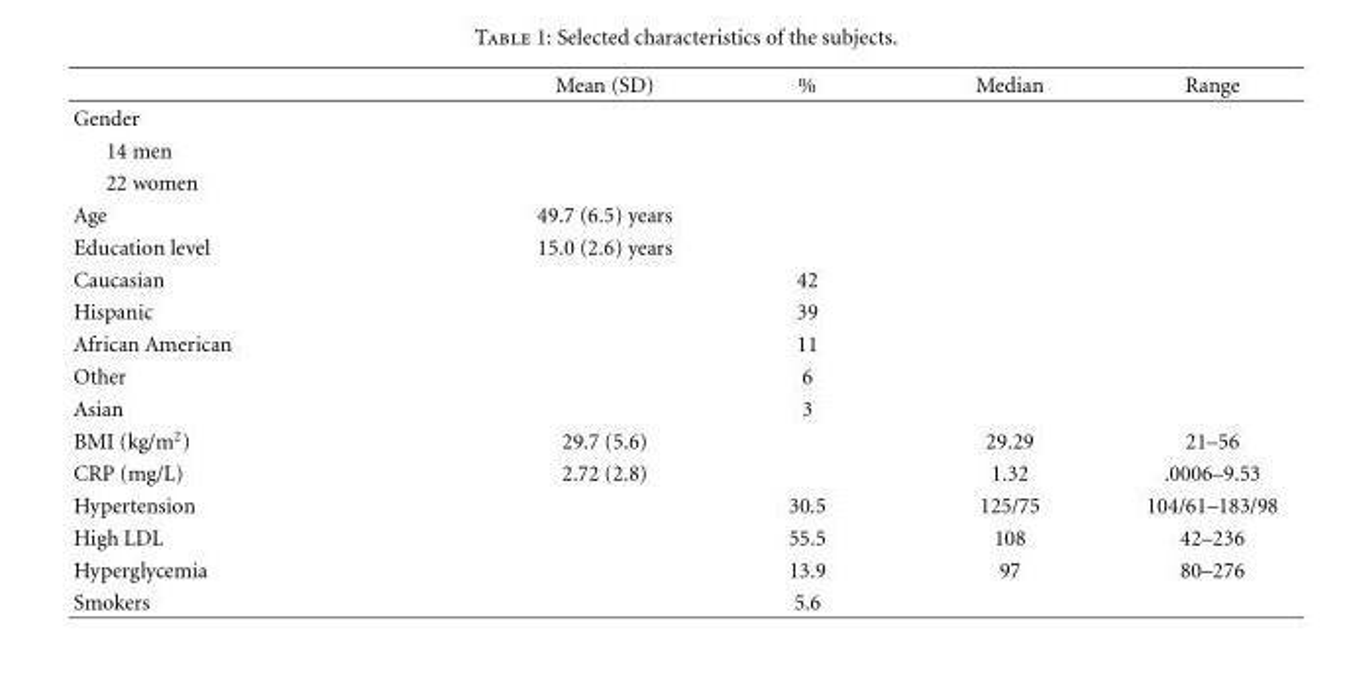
<table><thead><tr><td></td><td>Mean (SD)</td><td>%</td><td>Median</td><td>Range</td></tr></thead><tbody><tr><td colspan="5">Gender</td></tr><tr><td colspan="5">14 men</td></tr><tr><td colspan="5">22 women</td></tr><tr><td>Age</td><td>49.7 (6.5) years</td><td></td><td></td><td></td></tr><tr><td>Education level</td><td>15.0 (2.6) years</td><td></td><td></td><td></td></tr><tr><td>Caucasian</td><td></td><td>42</td><td></td><td></td></tr><tr><td>Hispanic</td><td></td><td>39</td><td></td><td></td></tr><tr><td>African American</td><td></td><td>11</td><td></td><td></td></tr><tr><td>Other</td><td></td><td>6</td><td></td><td></td></tr><tr><td>Asian</td><td></td><td>3</td><td></td><td></td></tr><tr><td>BMI (kg/m<sup>2</sup>)</td><td>29.7 (5.6)</td><td></td><td>29.29</td><td>21–56</td></tr><tr><td>CRP (mg/L)</td><td>2.72 (2.8)</td><td></td><td>1.32</td><td>.0006–9.53</td></tr><tr><td>Hypertension</td><td></td><td>30.5</td><td>125/75</td><td>104/61–183/98</td></tr><tr><td>High LDL</td><td></td><td>55.5</td><td>108</td><td>42–236</td></tr><tr><td>Hyperglycemia</td><td></td><td>13.9</td><td>97</td><td>80–276</td></tr><tr><td>Smokers</td><td></td><td>5.6</td><td></td><td></td></tr></tbody></table>